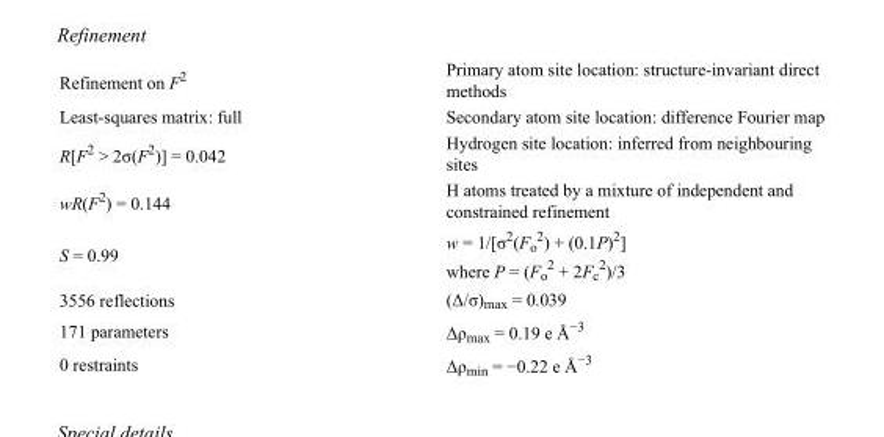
<table><tbody><tr><td>Refinement on F<sup>2</sup></td><td>Primary atom site location: structure-invariant direct methods</td></tr><tr><td>Least-squares matrix: full</td><td>Secondary atom site location: difference Fourier map</td></tr><tr><td>R[F<sup>2</sup> &gt; 2σ(F<sup>2</sup>)] = 0.042</td><td>Hydrogen site location: inferred from neighbouring sites</td></tr><tr><td>wR(F<sup>2</sup>) = 0.144</td><td>H atoms treated by a mixture of independent and constrained refinement</td></tr><tr><td>S = 0.99</td><td>w = 1/[σ<sup>2</sup>(F<sub>o</sub> <sup>2</sup>) + (0.1P)<sup>2</sup>] where P = (F<sub>o</sub> <sup>2</sup> + 2F<sub>c</sub> <sup>2</sup>)/3</td></tr><tr><td>3556 reflections</td><td>(Δ/σ)<sub>max</sub> = 0.039</td></tr><tr><td>171 parameters</td><td>Δρ<sub>max</sub> = 0.19 e Å<sup>−3</sup></td></tr><tr><td>0 restraints</td><td>Δρ<sub>min</sub> = −0.22 e Å<sup>−3</sup></td></tr></tbody></table>